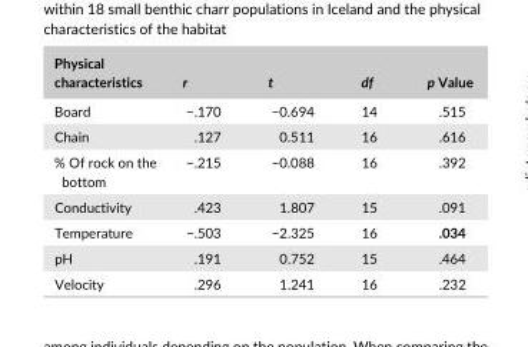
<table><thead><tr><td>Physical characteristics</td><td>r</td><td>t</td><td>df</td><td>p Value</td></tr></thead><tbody><tr><td>Board</td><td>−.170</td><td>−0.694</td><td>14</td><td>.515</td></tr><tr><td>Chain</td><td>.127</td><td>0.511</td><td>16</td><td>.616</td></tr><tr><td>% Of rock on the bottom</td><td>−.215</td><td>−0.088</td><td>16</td><td>.392</td></tr><tr><td>Conductivity</td><td>.423</td><td>1.807</td><td>15</td><td>.091</td></tr><tr><td>Temperature</td><td>−.503</td><td>−2.325</td><td>16</td><td>.034</td></tr><tr><td>pH</td><td>.191</td><td>0.752</td><td>15</td><td>.464</td></tr><tr><td>Velocity</td><td>.296</td><td>1.241</td><td>16</td><td>.232</td></tr></tbody></table>